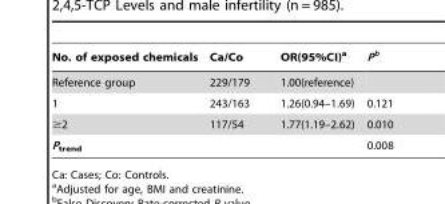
<table><thead><tr><td>No. of exposed chemicals</td><td>Ca/Co</td><td>OR(95%CI)<sup>a</sup></td><td>Pb</td></tr></thead><tbody><tr><td>Reference group</td><td>229/179</td><td>1.00(reference)</td><td></td></tr><tr><td>1</td><td>243/163</td><td>1.26(0.94–1.69)</td><td>0.121</td></tr><tr><td>≥2</td><td>117/54</td><td>1.77(1.19–2.62)</td><td>0.010</td></tr><tr><td>P<sub>trend</sub></td><td></td><td></td><td>0.008</td></tr></tbody></table>